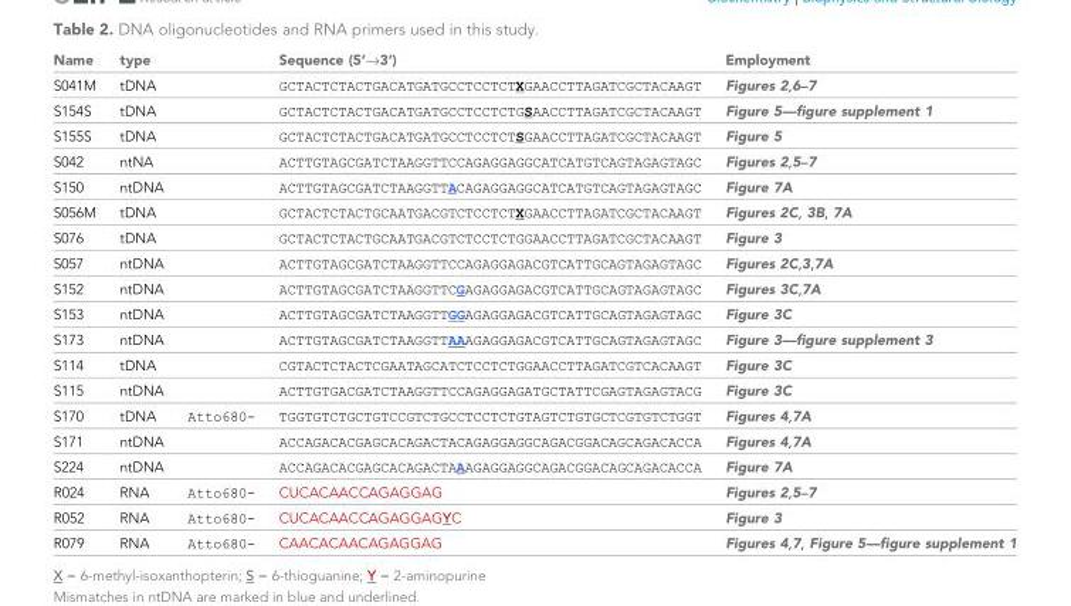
<table><thead><tr><td>Name</td><td>type</td><td></td><td>Sequence (5’fi3’)</td><td>Employment</td></tr></thead><tbody><tr><td>S041M</td><td>tDNA</td><td></td><td>GCTACTCTACTGACATGATGCCTCCTCTXGAACCTTAGATCGCTACAAGT</td><td>Figures 2,6–7</td></tr><tr><td>S154S</td><td>tDNA</td><td></td><td>GCTACTCTACTGACATGATGCCTCCTCTGSAACCTTAGATCGCTACAAGT</td><td>Figure 5—figure supplement 1</td></tr><tr><td>S155S</td><td>tDNA</td><td></td><td>GCTACTCTACTGACATGATGCCTCCTCTSGAACCTTAGATCGCTACAAGT</td><td>Figure 5</td></tr><tr><td>S042</td><td>ntNA</td><td></td><td>ACTTGTAGCGATCTAAGGTTCCAGAGGAGGCATCATGTCAGTAGAGTAGC</td><td>Figures 2,5–7</td></tr><tr><td>S150</td><td>ntDNA</td><td></td><td>ACTTGTAGCGATCTAAGGTTACAGAGGAGGCATCATGTCAGTAGAGTAGC</td><td>Figure 7A</td></tr><tr><td>S056M</td><td>tDNA</td><td></td><td>GCTACTCTACTGCAATGACGTCTCCTCTXGAACCTTAGATCGCTACAAGT</td><td>Figures 2C, 3B, 7A</td></tr><tr><td>S076</td><td>tDNA</td><td></td><td>GCTACTCTACTGCAATGACGTCTCCTCTGGAACCTTAGATCGCTACAAGT</td><td>Figure 3</td></tr><tr><td>S057</td><td>ntDNA</td><td></td><td>ACTTGTAGCGATCTAAGGTTCCAGAGGAGACGTCATTGCAGTAGAGTAGC</td><td>Figures 2C,3,7A</td></tr><tr><td>S152</td><td>ntDNA</td><td></td><td>ACTTGTAGCGATCTAAGGTTCGAGAGGAGACGTCATTGCAGTAGAGTAGC</td><td>Figures 3C,7A</td></tr><tr><td>S153</td><td>ntDNA</td><td></td><td>ACTTGTAGCGATCTAAGGTTGGAGAGGAGACGTCATTGCAGTAGAGTAGC</td><td>Figure 3C</td></tr><tr><td>S173</td><td>ntDNA</td><td></td><td>ACTTGTAGCGATCTAAGGTTAAAGAGGAGACGTCATTGCAGTAGAGTAGC</td><td>Figure 3—figure supplement 3</td></tr><tr><td>S114</td><td>tDNA</td><td></td><td>CGTACTCTACTCGAATAGCATCTCCTCTGGAACCTTAGATCGTCACAAGT</td><td>Figure 3C</td></tr><tr><td>S115</td><td>ntDNA</td><td></td><td>ACTTGTGACGATCTAAGGTTCCAGAGGAGATGCTATTCGAGTAGAGTACG</td><td>Figure 3C</td></tr><tr><td>S170</td><td>tDNA</td><td>Atto680-</td><td>TGGTGTCTGCTGTCCGTCTGCCTCCTCTGTAGTCTGTGCTCGTGTCTGGT</td><td>Figures 4,7A</td></tr><tr><td>S171</td><td>ntDNA</td><td></td><td>ACCAGACACGAGCACAGACTACAGAGGAGGCAGACGGACAGCAGACACCA</td><td>Figures 4,7A</td></tr><tr><td>S224</td><td>ntDNA</td><td></td><td>ACCAGACACGAGCACAGACTAAAGAGGAGGCAGACGGACAGCAGACACCA</td><td>Figure 7A</td></tr><tr><td>R024</td><td>RNA</td><td>Atto680-</td><td>CUCACAACCAGAGGAG</td><td>Figures 2,5–7</td></tr><tr><td>R052</td><td>RNA</td><td>Atto680-</td><td>CUCACAACCAGAGGAGYC</td><td>Figure 3</td></tr><tr><td>R079</td><td>RNA</td><td>Atto680-</td><td>CAACACAACAGAGGAG</td><td>Figures 4,7, Figure 5—figure supplement 1</td></tr></tbody></table>